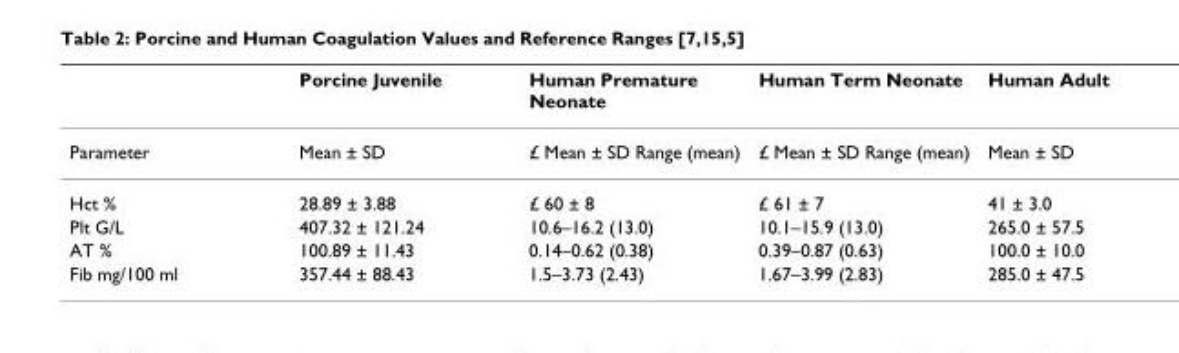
<table><thead><tr><td></td><td>Porcine Juvenile</td><td>Human Premature Neonate</td><td>Human Term Neonate</td><td>Human Adult</td></tr></thead><tbody><tr><td>Parameter</td><td>Mean ± SD</td><td>£ Mean ± SD Range (mean)</td><td>£ Mean ± SD Range (mean)</td><td>Mean ± SD</td></tr><tr><td>Hct %</td><td>28.89 ± 3.88</td><td>£ 60 ± 8</td><td>£ 61 ± 7</td><td>41 ± 3.0</td></tr><tr><td>Plt G/L</td><td>407.32 ± 121.24</td><td>10.6–16.2 (13.0)</td><td>10.1–15.9 (13.0)</td><td>265.0 ± 57.5</td></tr><tr><td>AT %</td><td>100.89 ± 11.43</td><td>0.14–0.62 (0.38)</td><td>0.39–0.87 (0.63)</td><td>100.0 ± 10.0</td></tr><tr><td>Fib mg/100 ml</td><td>357.44 ± 88.43</td><td>1.5–3.73 (2.43)</td><td>1.67–3.99 (2.83)</td><td>285.0 ± 47.5</td></tr></tbody></table>